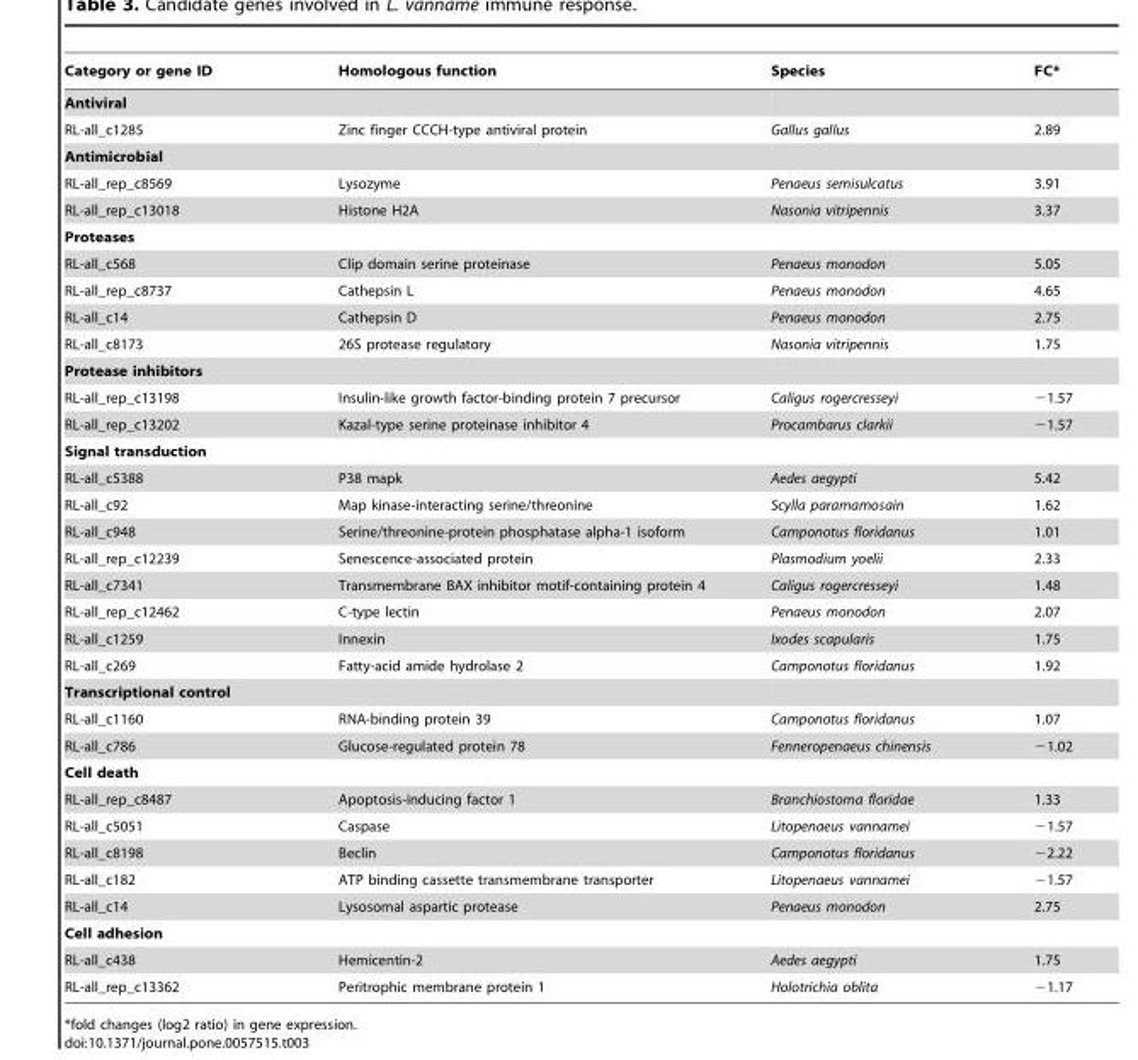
<table><thead><tr><td>Category or gene ID</td><td>Homologous function</td><td>Species</td><td>FC*</td></tr></thead><tbody><tr><td colspan="4">Antiviral</td></tr><tr><td>RL-all_c1285</td><td>Zinc finger CCCH-type antiviral protein</td><td>Gallus gallus</td><td>2.89</td></tr><tr><td colspan="4">Antimicrobial</td></tr><tr><td>RL-all_rep_c8569</td><td>Lysozyme</td><td>Penaeus semisulcatus</td><td>3.91</td></tr><tr><td>RL-all_rep_c13018</td><td>Histone H2A</td><td>Nasonia vitripennis</td><td>3.37</td></tr><tr><td colspan="4">Proteases</td></tr><tr><td>RL-all_c568</td><td>Clip domain serine proteinase</td><td>Penaeus monodon</td><td>5.05</td></tr><tr><td>RL-all_rep_c8737</td><td>Cathepsin L</td><td>Penaeus monodon</td><td>4.65</td></tr><tr><td>RL-all_c14</td><td>Cathepsin D</td><td>Penaeus monodon</td><td>2.75</td></tr><tr><td>RL-all_c8173</td><td>26S protease regulatory</td><td>Nasonia vitripennis</td><td>1.75</td></tr><tr><td colspan="4">Protease inhibitors</td></tr><tr><td>RL-all_rep_c13198</td><td>Insulin-like growth factor-binding protein 7 precursor</td><td>Caligus rogercresseyi</td><td>−1.57</td></tr><tr><td>RL-all_rep_c13202</td><td>Kazal-type serine proteinase inhibitor 4</td><td>Procambarus clarkii</td><td>−1.57</td></tr><tr><td colspan="4">Signal transduction</td></tr><tr><td>RL-all_c5388</td><td>P38 mapk</td><td>Aedes aegypti</td><td>5.42</td></tr><tr><td>RL-all_c92</td><td>Map kinase-interacting serine/threonine</td><td>Scylla paramamosain</td><td>1.62</td></tr><tr><td>RL-all_c948</td><td>Serine/threonine-protein phosphatase alpha-1 isoform</td><td>Camponotus floridanus</td><td>1.01</td></tr><tr><td>RL-all_rep_c12239</td><td>Senescence-associated protein</td><td>Plasmodium yoelii</td><td>2.33</td></tr><tr><td>RL-all_c7341</td><td>Transmembrane BAX inhibitor motif-containing protein 4</td><td>Caligus rogercresseyi</td><td>1.48</td></tr><tr><td>RL-all_rep_c12462</td><td>C-type lectin</td><td>Penaeus monodon</td><td>2.07</td></tr><tr><td>RL-all_c1259</td><td>Innexin</td><td>Ixodes scapularis</td><td>1.75</td></tr><tr><td>RL-all_c269</td><td>Fatty-acid amide hydrolase 2</td><td>Camponotus floridanus</td><td>1.92</td></tr><tr><td colspan="4">Transcriptional control</td></tr><tr><td>RL-all_c1160</td><td>RNA-binding protein 39</td><td>Camponotus floridanus</td><td>1.07</td></tr><tr><td>RL-all_c786</td><td>Glucose-regulated protein 78</td><td>Fenneropenaeus chinensis</td><td>−1.02</td></tr><tr><td colspan="4">Cell death</td></tr><tr><td>RL-all_rep_c8487</td><td>Apoptosis-inducing factor 1</td><td>Branchiostoma floridae</td><td>1.33</td></tr><tr><td>RL-all_c5051</td><td>Caspase</td><td>Litopenaeus vannamei</td><td>−1.57</td></tr><tr><td>RL-all_c8198</td><td>Beclin</td><td>Camponotus floridanus</td><td>−2.22</td></tr><tr><td>RL-all_c182</td><td>ATP binding cassette transmembrane transporter</td><td>Litopenaeus vannamei</td><td>−1.57</td></tr><tr><td>RL-all_c14</td><td>Lysosomal aspartic protease</td><td>Penaeus monodon</td><td>2.75</td></tr><tr><td colspan="4">Cell adhesion</td></tr><tr><td>RL-all_c438</td><td>Hemicentin-2</td><td>Aedes aegypti</td><td>1.75</td></tr><tr><td>RL-all_rep_c13362</td><td>Peritrophic membrane protein 1</td><td>Holotrichia oblita</td><td>−1.17</td></tr></tbody></table>